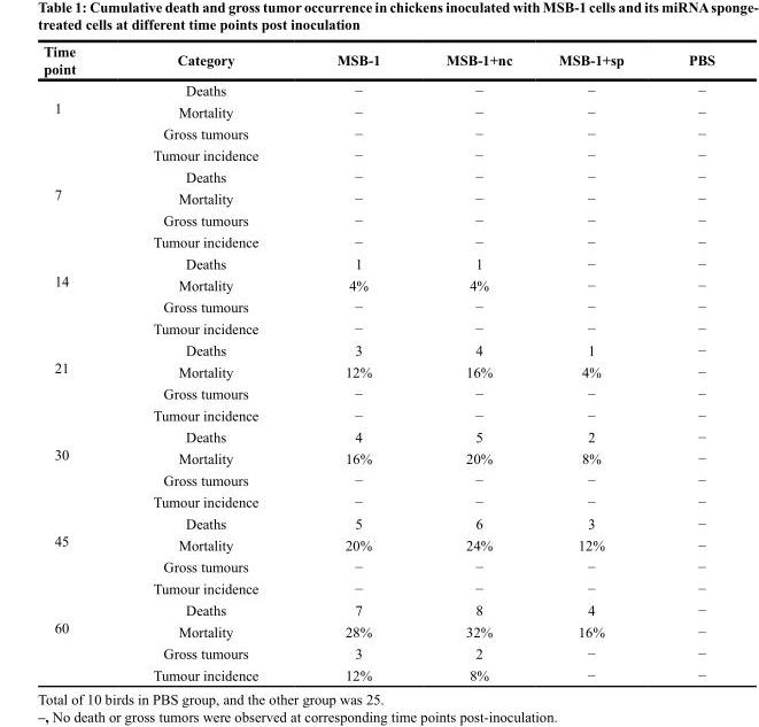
<table><thead><tr><td>Time point</td><td>Category</td><td>MSB-1</td><td>MSB-1+nc</td><td>MSB-1+sp</td><td>PBS</td></tr></thead><tbody><tr><td rowspan="4">1</td><td>Deaths</td><td>−</td><td>−</td><td>−</td><td>−</td></tr><tr><td>Mortality</td><td>−</td><td>−</td><td>−</td><td>−</td></tr><tr><td>Gross tumours</td><td>−</td><td>−</td><td>−</td><td>−</td></tr><tr><td>Tumour incidence</td><td>−</td><td>−</td><td>−</td><td>−</td></tr><tr><td rowspan="4">7</td><td>Deaths</td><td>−</td><td>−</td><td>−</td><td>−</td></tr><tr><td>Mortality</td><td>−</td><td>−</td><td>−</td><td>−</td></tr><tr><td>Gross tumours</td><td>−</td><td>−</td><td>−</td><td>−</td></tr><tr><td>Tumour incidence</td><td>−</td><td>−</td><td>−</td><td>−</td></tr><tr><td rowspan="4">14</td><td>Deaths</td><td>1</td><td>1</td><td>−</td><td>−</td></tr><tr><td>Mortality</td><td>4%</td><td>4%</td><td>−</td><td>−</td></tr><tr><td>Gross tumours</td><td>−</td><td>−</td><td>−</td><td>−</td></tr><tr><td>Tumour incidence</td><td>−</td><td>−</td><td>−</td><td>−</td></tr><tr><td rowspan="4">21</td><td>Deaths</td><td>3</td><td>4</td><td>1</td><td>−</td></tr><tr><td>Mortality</td><td>12%</td><td>16%</td><td>4%</td><td>−</td></tr><tr><td>Gross tumours</td><td>−</td><td>−</td><td>−</td><td>−</td></tr><tr><td>Tumour incidence</td><td>−</td><td>−</td><td>−</td><td>−</td></tr><tr><td rowspan="4">30</td><td>Deaths</td><td>4</td><td>5</td><td>2</td><td>−</td></tr><tr><td>Mortality</td><td>16%</td><td>20%</td><td>8%</td><td>−</td></tr><tr><td>Gross tumours</td><td>−</td><td>−</td><td>−</td><td>−</td></tr><tr><td>Tumour incidence</td><td>−</td><td>−</td><td>−</td><td>−</td></tr><tr><td rowspan="4">45</td><td>Deaths</td><td>5</td><td>6</td><td>3</td><td>−</td></tr><tr><td>Mortality</td><td>20%</td><td>24%</td><td>12%</td><td>−</td></tr><tr><td>Gross tumours</td><td>−</td><td>−</td><td>−</td><td>−</td></tr><tr><td>Tumour incidence</td><td>−</td><td>−</td><td>−</td><td>−</td></tr><tr><td rowspan="4">60</td><td>Deaths</td><td>7</td><td>8</td><td>4</td><td>−</td></tr><tr><td>Mortality</td><td>28%</td><td>32%</td><td>16%</td><td>−</td></tr><tr><td>Gross tumours</td><td>3</td><td>2</td><td>−</td><td>−</td></tr><tr><td>Tumour incidence</td><td>12%</td><td>8%</td><td>−</td><td>−</td></tr></tbody></table>